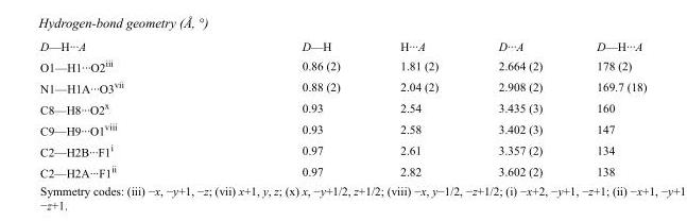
<table><tbody><tr><td>D—H···A</td><td>D—H</td><td>H···A</td><td>D···A</td><td>D—H···A</td></tr><tr><td>O1—H1···O2<sup>iii</sup></td><td>0.86 (2)</td><td>1.81 (2)</td><td>2.664 (2)</td><td>178 (2)</td></tr><tr><td>N1—H1A···O3<sup>vii</sup></td><td>0.88 (2)</td><td>2.04 (2)</td><td>2.908 (2)</td><td>169.7 (18)</td></tr><tr><td>C8—H8···O2<sup>x</sup></td><td>0.93</td><td>2.54</td><td>3.435 (3)</td><td>160</td></tr><tr><td>C9—H9···O1<sup>viii</sup></td><td>0.93</td><td>2.58</td><td>3.402 (3)</td><td>147</td></tr><tr><td>C2—H2B···F1<sup>i</sup></td><td>0.97</td><td>2.61</td><td>3.357 (2)</td><td>134</td></tr><tr><td>C2—H2A···F1<sup>ii</sup></td><td>0.97</td><td>2.82</td><td>3.602 (2)</td><td>138</td></tr></tbody></table>